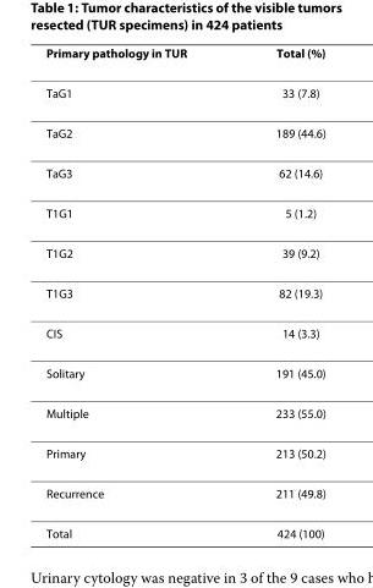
<table><thead><tr><td>Primary pathology in TUR</td><td>Total (%)</td></tr></thead><tbody><tr><td>TaG1</td><td>33 (7.8)</td></tr><tr><td>TaG2</td><td>189 (44.6)</td></tr><tr><td>TaG3</td><td>62 (14.6)</td></tr><tr><td>T1G1</td><td>5 (1.2)</td></tr><tr><td>T1G2</td><td>39 (9.2)</td></tr><tr><td>T1G3</td><td>82 (19.3)</td></tr><tr><td>CIS</td><td>14 (3.3)</td></tr><tr><td>Solitary</td><td>191 (45.0)</td></tr><tr><td>Multiple</td><td>233 (55.0)</td></tr><tr><td>Primary</td><td>213 (50.2)</td></tr><tr><td>Recurrence</td><td>211 (49.8)</td></tr><tr><td>Total</td><td>424 (100)</td></tr></tbody></table>